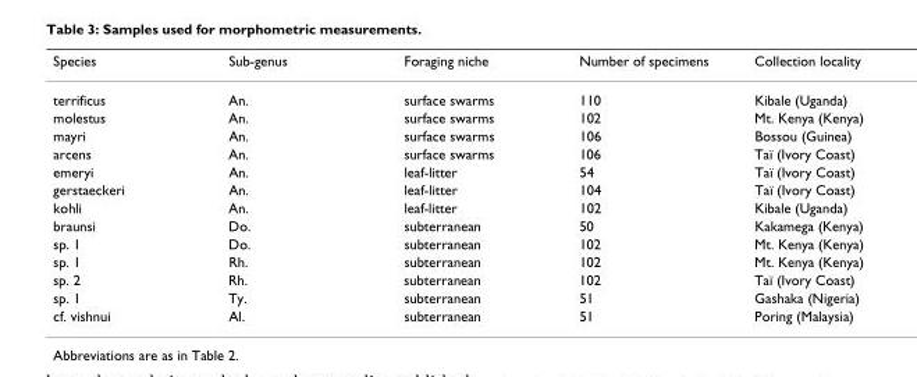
<table><thead><tr><td>Species</td><td>Sub-genus</td><td>Foraging niche</td><td>Number of specimens</td><td>Collection locality</td></tr></thead><tbody><tr><td>terrificus</td><td>An.</td><td>surface swarms</td><td>110</td><td>Kibale (Uganda)</td></tr><tr><td>molestus</td><td>An.</td><td>surface swarms</td><td>102</td><td>Mt. Kenya (Kenya)</td></tr><tr><td>mayri</td><td>An.</td><td>surface swarms</td><td>106</td><td>Bossou (Guinea)</td></tr><tr><td>arcens</td><td>An.</td><td>surface swarms</td><td>106</td><td>Taï (Ivory Coast)</td></tr><tr><td>emeryi</td><td>An.</td><td>leaf-litter</td><td>54</td><td>Taï (Ivory Coast)</td></tr><tr><td>gerstaeckeri</td><td>An.</td><td>leaf-litter</td><td>104</td><td>Taï (Ivory Coast)</td></tr><tr><td>kohli</td><td>An.</td><td>leaf-litter</td><td>102</td><td>Kibale (Uganda)</td></tr><tr><td>braunsi</td><td>Do.</td><td>subterranean</td><td>50</td><td>Kakamega (Kenya)</td></tr><tr><td>sp. 1</td><td>Do.</td><td>subterranean</td><td>102</td><td>Mt. Kenya (Kenya)</td></tr><tr><td>sp. 1</td><td>Rh.</td><td>subterranean</td><td>102</td><td>Mt. Kenya (Kenya)</td></tr><tr><td>sp. 2</td><td>Rh.</td><td>subterranean</td><td>102</td><td>Taï (Ivory Coast)</td></tr><tr><td>sp. 1</td><td>Ty.</td><td>subterranean</td><td>51</td><td>Gashaka (Nigeria)</td></tr><tr><td>cf. vishnui</td><td>Al.</td><td>subterranean</td><td>51</td><td>Poring (Malaysia)</td></tr></tbody></table>